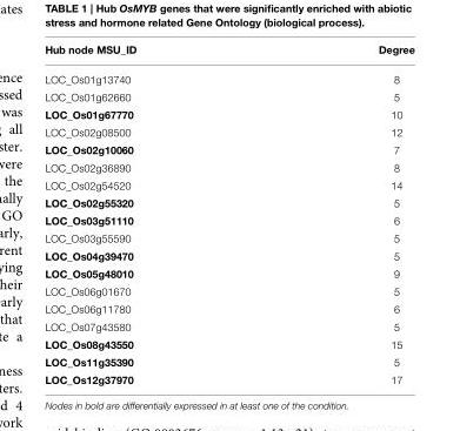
<table><thead><tr><td>Hub node MSU_ID</td><td>Degree</td></tr></thead><tbody><tr><td>LOC_Os01g13740</td><td>8</td></tr><tr><td>LOC_Os01g62660</td><td>5</td></tr><tr><td>LOC_Os01g67770</td><td>10</td></tr><tr><td>LOC_Os02g08500</td><td>12</td></tr><tr><td>LOC_Os02g10060</td><td>7</td></tr><tr><td>LOC_Os02g36890</td><td>8</td></tr><tr><td>LOC_Os02g54520</td><td>14</td></tr><tr><td>LOC_Os02g55320</td><td>5</td></tr><tr><td>LOC_Os03g51110</td><td>6</td></tr><tr><td>LOC_Os03g55590</td><td>5</td></tr><tr><td>LOC_Os04g39470</td><td>5</td></tr><tr><td>LOC_Os05g48010</td><td>9</td></tr><tr><td>LOC_Os06g01670</td><td>5</td></tr><tr><td>LOC_Os06g11780</td><td>6</td></tr><tr><td>LOC_Os07g43580</td><td>5</td></tr><tr><td>LOC_Os08g43550</td><td>15</td></tr><tr><td>LOC_Os11g35390</td><td>5</td></tr><tr><td>LOC_Os12g37970</td><td>17</td></tr></tbody></table>